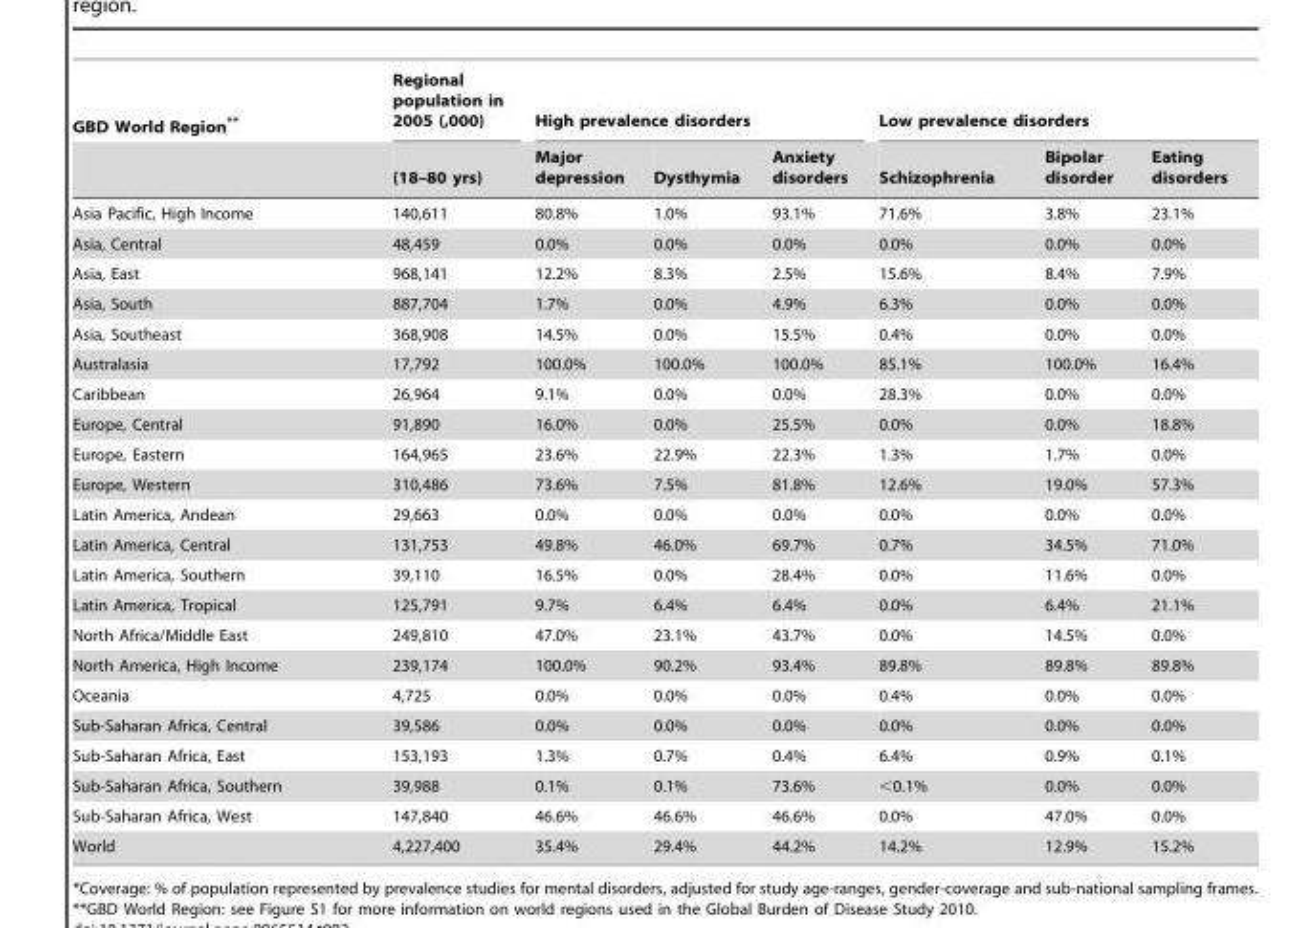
<table><thead><tr><td rowspan="2">GBD World Region**</td><td rowspan="2">Regional population in 2005 (,000) (18–80 yrs)</td><td colspan="3">High prevalence disorders</td><td colspan="3">Low prevalence disorders</td></tr><tr><td>Major depression</td><td>Dysthymia</td><td>Anxiety disorders</td><td>Schizophrenia</td><td>Bipolar disorder</td><td>Eating disorders</td></tr></thead><tbody><tr><td>Asia Pacific, High Income</td><td>140,611</td><td>80.8%</td><td>1.0%</td><td>93.1%</td><td>71.6%</td><td>3.8%</td><td>23.1%</td></tr><tr><td>Asia, Central</td><td>48,459</td><td>0.0%</td><td>0.0%</td><td>0.0%</td><td>0.0%</td><td>0.0%</td><td>0.0%</td></tr><tr><td>Asia, East</td><td>968,141</td><td>12.2%</td><td>8.3%</td><td>2.5%</td><td>15.6%</td><td>8.4%</td><td>7.9%</td></tr><tr><td>Asia, South</td><td>887,704</td><td>1.7%</td><td>0.0%</td><td>4.9%</td><td>6.3%</td><td>0.0%</td><td>0.0%</td></tr><tr><td>Asia, Southeast</td><td>368,908</td><td>14.5%</td><td>0.0%</td><td>15.5%</td><td>0.4%</td><td>0.0%</td><td>0.0%</td></tr><tr><td>Australasia</td><td>17,792</td><td>100.0%</td><td>100.0%</td><td>100.0%</td><td>85.1%</td><td>100.0%</td><td>16.4%</td></tr><tr><td>Caribbean</td><td>26,964</td><td>9.1%</td><td>0.0%</td><td>0.0%</td><td>28.3%</td><td>0.0%</td><td>0.0%</td></tr><tr><td>Europe, Central</td><td>91,890</td><td>16.0%</td><td>0.0%</td><td>25.5%</td><td>0.0%</td><td>0.0%</td><td>18.8%</td></tr><tr><td>Europe, Eastern</td><td>164,965</td><td>23.6%</td><td>22.9%</td><td>22.3%</td><td>1.3%</td><td>1.7%</td><td>0.0%</td></tr><tr><td>Europe, Western</td><td>310,486</td><td>73.6%</td><td>7.5%</td><td>81.8%</td><td>12.6%</td><td>19.0%</td><td>57.3%</td></tr><tr><td>Latin America, Andean</td><td>29,663</td><td>0.0%</td><td>0.0%</td><td>0.0%</td><td>0.0%</td><td>0.0%</td><td>0.0%</td></tr><tr><td>Latin America, Central</td><td>131,753</td><td>49.8%</td><td>46.0%</td><td>69.7%</td><td>0.7%</td><td>34.5%</td><td>71.0%</td></tr><tr><td>Latin America, Southern</td><td>39,110</td><td>16.5%</td><td>0.0%</td><td>28.4%</td><td>0.0%</td><td>11.6%</td><td>0.0%</td></tr><tr><td>Latin America, Tropical</td><td>125,791</td><td>9.7%</td><td>6.4%</td><td>6.4%</td><td>0.0%</td><td>6.4%</td><td>21.1%</td></tr><tr><td>North Africa/Middle East</td><td>249,810</td><td>47.0%</td><td>23.1%</td><td>43.7%</td><td>0.0%</td><td>14.5%</td><td>0.0%</td></tr><tr><td>North America, High Income</td><td>239,174</td><td>100.0%</td><td>90.2%</td><td>93.4%</td><td>89.8%</td><td>89.8%</td><td>89.8%</td></tr><tr><td>Oceania</td><td>4,725</td><td>0.0%</td><td>0.0%</td><td>0.0%</td><td>0.4%</td><td>0.0%</td><td>0.0%</td></tr><tr><td>Sub-Saharan Africa, Central</td><td>39,586</td><td>0.0%</td><td>0.0%</td><td>0.0%</td><td>0.0%</td><td>0.0%</td><td>0.0%</td></tr><tr><td>Sub-Saharan Africa, East</td><td>153,193</td><td>1.3%</td><td>0.7%</td><td>0.4%</td><td>6.4%</td><td>0.9%</td><td>0.1%</td></tr><tr><td>Sub-Saharan Africa, Southern</td><td>39,988</td><td>0.1%</td><td>0.1%</td><td>73.6%</td><td>&lt;0.1%</td><td>0.0%</td><td>0.0%</td></tr><tr><td>Sub-Saharan Africa, West</td><td>147,840</td><td>46.6%</td><td>46.6%</td><td>46.6%</td><td>0.0%</td><td>47.0%</td><td>0.0%</td></tr><tr><td>World</td><td>4,227,400</td><td>35.4%</td><td>29.4%</td><td>44.2%</td><td>14.2%</td><td>12.9%</td><td>15.2%</td></tr></tbody></table>